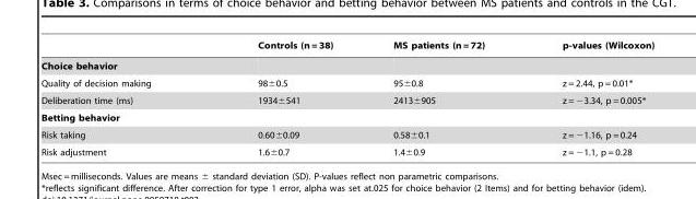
<table><thead><tr><td></td><td>Controls (n = 38)</td><td>MS patients (n = 72)</td><td>p-values (Wilcoxon)</td></tr></thead><tbody><tr><td colspan="4">Choice behavior</td></tr><tr><td>Quality of decision making</td><td>98±0.5</td><td>95±0.8</td><td>z = 2.44, p = 0.01*</td></tr><tr><td>Deliberation time (ms)</td><td>1934±541</td><td>2413±905</td><td>z = −3.34, p = 0.005*</td></tr><tr><td colspan="4">Betting behavior</td></tr><tr><td>Risk taking</td><td>0.60±0.09</td><td>0.58±0.1</td><td>z = −1.16, p = 0.24</td></tr><tr><td>Risk adjustment</td><td>1.6±0.7</td><td>1.4±0.9</td><td>z = −1.1, p = 0.28</td></tr></tbody></table>